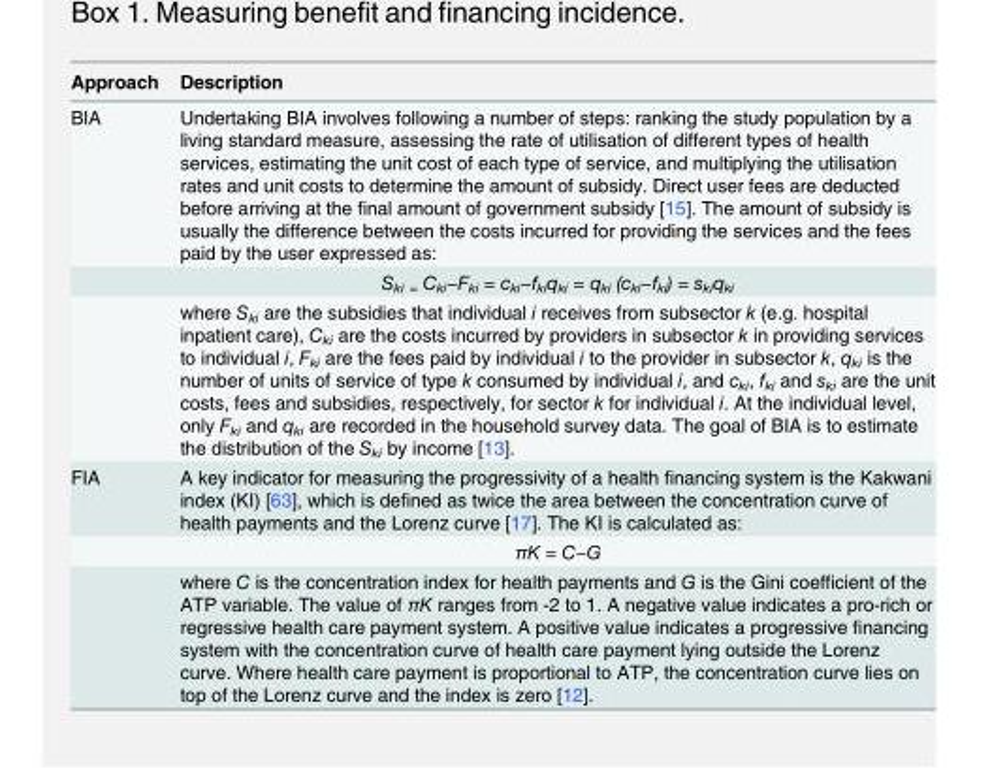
<table><thead><tr><td>Approach</td><td>Description</td></tr></thead><tbody><tr><td rowspan="3">BIA</td><td>Undertaking BIA involves following a number of steps: ranking the study population by a living standard measure, assessing the rate of utilisation of different types of health services, estimating the unit cost of each type of service, and multiplying the utilisation rates and unit costs to determine the amount of subsidy. Direct user fees are deducted before arriving at the final amount of government subsidy [15]. The amount of subsidy is usually the difference between the costs incurred for providing the services and the fees paid by the user expressed as:</td></tr><tr><td>Ski = Cki−Fki = cki−fkiqki = qki (cki−fki) = skiqki</td></tr><tr><td>where Ski are the subsidies that individual i receives from subsector k (e.g. hospital inpatient care), Cki are the costs incurred by providers in subsector k in providing services to individual i, Fki are the fees paid by individual i to the provider in subsector k, qki is the number of units of service of type k consumed by individual i, and cki, fki and ski are the unit costs, fees and subsidies, respectively, for sector k for individual i. At the individual level, only Fki and qki are recorded in the household survey data. The goal of BIA is to estimate the distribution of the Ski by income [13].</td></tr><tr><td rowspan="3">FIA</td><td>A key indicator for measuring the progressivity of a health financing system is the Kakwani index (KI) [63], which is defined as twice the area between the concentration curve of health payments and the Lorenz curve [17]. The KI is calculated as:</td></tr><tr><td>πK = C−G</td></tr><tr><td>where C is the concentration index for health payments and G is the Gini coefficient of the ATP variable. The value of πK ranges from -2 to 1. A negative value indicates a pro-rich or regressive health care payment system. A positive value indicates a progressive financing system with the concentration curve of health care payment lying outside the Lorenz curve. Where health care payment is proportional to ATP, the concentration curve lies on top of the Lorenz curve and the index is zero [12].</td></tr></tbody></table>